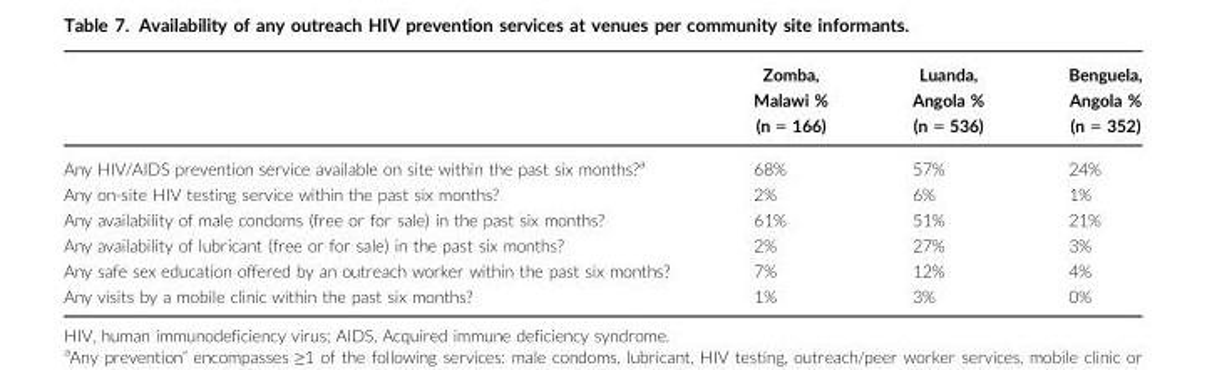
<table><thead><tr><td></td><td>Zomba, Malawi % (n = 166)</td><td>Luanda, Angola % (n = 536)</td><td>Benguela, Angola % (n = 352)</td></tr></thead><tbody><tr><td>Any HIV/AIDS prevention service available on site within the past six months?<sup>a</sup></td><td>68%</td><td>57%</td><td>24%</td></tr><tr><td>Any on-site HIV testing service within the past six months?</td><td>2%</td><td>6%</td><td>1%</td></tr><tr><td>Any availability of male condoms (free or for sale) in the past six months?</td><td>61%</td><td>51%</td><td>21%</td></tr><tr><td>Any availability of lubricant (free or for sale) in the past six months?</td><td>2%</td><td>27%</td><td>3%</td></tr><tr><td>Any safe sex education offered by an outreach worker within the past six months?</td><td>7%</td><td>12%</td><td>4%</td></tr><tr><td>Any visits by a mobile clinic within the past six months?</td><td>1%</td><td>3%</td><td>0%</td></tr></tbody></table>